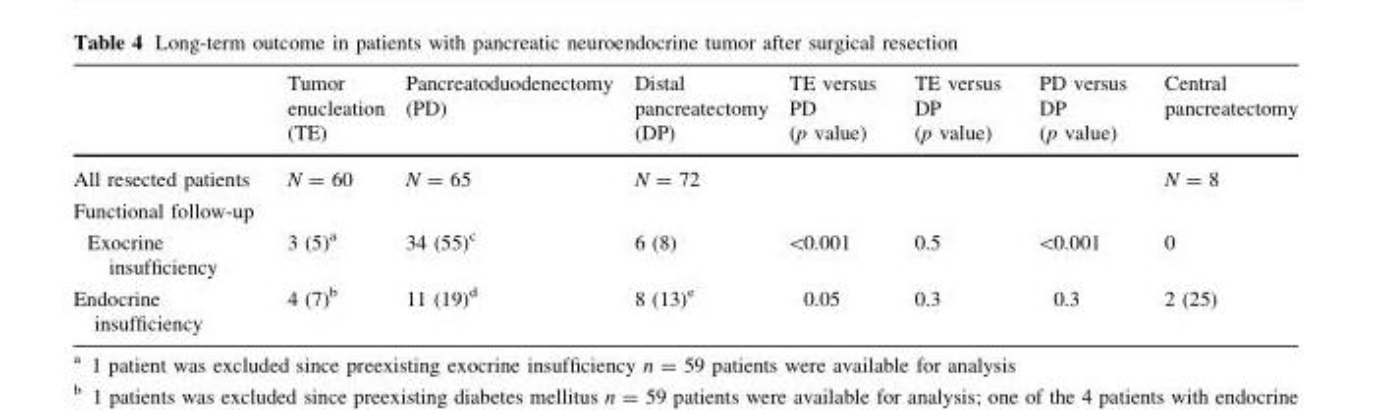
<table><thead><tr><td></td><td>Tumor enucleation (TE)</td><td>Pancreatoduodenectomy (PD)</td><td>Distal pancreatectomy (DP)</td><td>TE versus PD (p value)</td><td>TE versus DP (p value)</td><td>PD versus DP (p value)</td><td>Central pancreatectomy</td></tr></thead><tbody><tr><td>All resected patients</td><td>N = 60</td><td>N = 65</td><td>N = 72</td><td></td><td></td><td></td><td>N = 8</td></tr><tr><td colspan="8">Functional follow-up</td></tr><tr><td>Exocrine insufficiency</td><td>3 (5)<sup>a</sup></td><td>34 (55)<sup>c</sup></td><td>6 (8)</td><td>&lt;0.001</td><td>0.5</td><td>&lt;0.001</td><td>0</td></tr><tr><td>Endocrine insufficiency</td><td>4 (7)<sup>b</sup></td><td>11 (19)<sup>d</sup></td><td>8 (13)<sup>e</sup></td><td>0.05</td><td>0.3</td><td>0.3</td><td>2 (25)</td></tr></tbody></table>